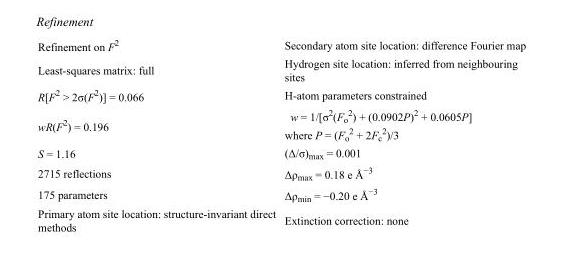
<table><tbody><tr><td>Refinement on F<sup>2</sup></td><td>Secondary atom site location: difference Fourier map</td></tr><tr><td>Least-squares matrix: full</td><td>Hydrogen site location: inferred from neighbouring sites</td></tr><tr><td>R[F<sup>2</sup> &gt; 2σ(F<sup>2</sup>)] = 0.066</td><td>H-atom parameters constrained</td></tr><tr><td>wR(F<sup>2</sup>) = 0.196</td><td>w = 1/[σ<sup>2</sup>(F<sub>o</sub> <sup>2</sup>) + (0.0902P)<sup>2</sup> + 0.0605P] where P = (F<sub>o</sub> <sup>2</sup> + 2F<sub>c</sub> <sup>2</sup>)/3</td></tr><tr><td>S = 1.16</td><td>(Δ/σ)<sub>max</sub> = 0.001</td></tr><tr><td>2715 reflections</td><td>Δρ<sub>max</sub> = 0.18 e Å<sup>−3</sup></td></tr><tr><td>175 parameters</td><td>Δρ<sub>min</sub> = −0.20 e Å<sup>−3</sup></td></tr><tr><td>Primary atom site location: structure-invariant direct methods</td><td>Extinction correction: none</td></tr></tbody></table>